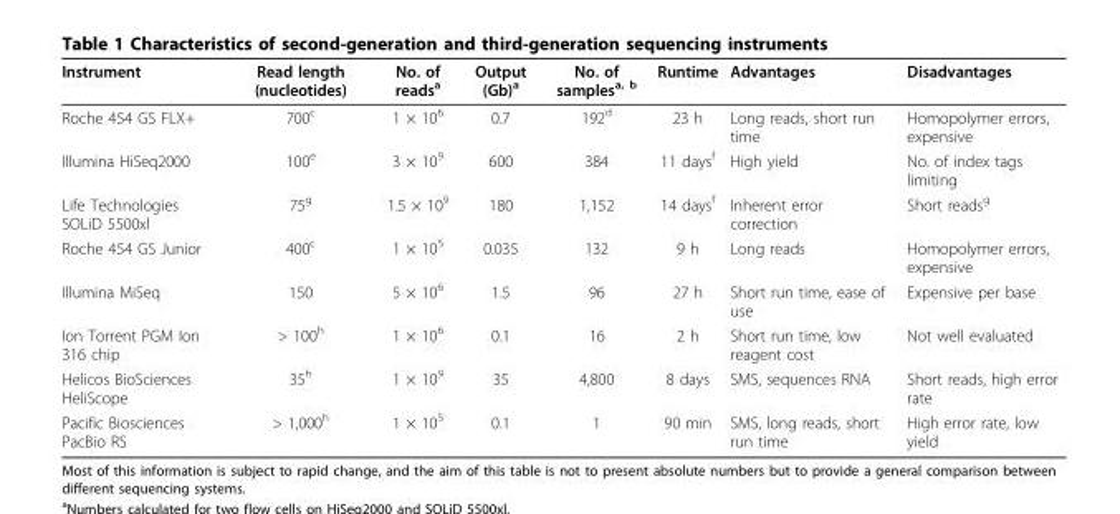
<table><thead><tr><td>Instrument</td><td>Read length (nucleotides)</td><td>No. of reads<sup>a</sup></td><td>Output (Gb)<sup>a</sup></td><td>No. of samples<sup>a, b</sup></td><td>Runtime</td><td>Advantages</td><td>Disadvantages</td></tr></thead><tbody><tr><td>Roche 454 GS FLX+</td><td>700<sup>c</sup></td><td>1 × 10<sup>6</sup></td><td>0.7</td><td>192<sup>d</sup></td><td>23 h</td><td>Long reads, short run time</td><td>Homopolymer errors, expensive</td></tr><tr><td>Illumina HiSeq2000</td><td>100<sup>e</sup></td><td>3 × 10<sup>9</sup></td><td>600</td><td>384</td><td>11 days<sup>f</sup></td><td>High yield</td><td>No. of index tags limiting</td></tr><tr><td>Life Technologies SOLiD 5500xl</td><td>75<sup>g</sup></td><td>1.5 × 10<sup>9</sup></td><td>180</td><td>1,152</td><td>14 days<sup>f</sup></td><td>Inherent error correction</td><td>Short reads<sup>g</sup></td></tr><tr><td>Roche 454 GS Junior</td><td>400<sup>c</sup></td><td>1 × 10<sup>5</sup></td><td>0.035</td><td>132</td><td>9 h</td><td>Long reads</td><td>Homopolymer errors, expensive</td></tr><tr><td>Illumina MiSeq</td><td>150</td><td>5 × 10<sup>6</sup></td><td>1.5</td><td>96</td><td>27 h</td><td>Short run time, ease of use</td><td>Expensive per base</td></tr><tr><td>Ion Torrent PGM Ion 316 chip</td><td>&gt; 100<sup>h</sup></td><td>1 × 10<sup>6</sup></td><td>0.1</td><td>16</td><td>2 h</td><td>Short run time, low reagent cost</td><td>Not well evaluated</td></tr><tr><td>Helicos BioSciences HeliScope</td><td>35<sup>h</sup></td><td>1 × 10<sup>9</sup></td><td>35</td><td>4,800</td><td>8 days</td><td>SMS, sequences RNA</td><td>Short reads, high error rate</td></tr><tr><td>Pacific Biosciences PacBio RS</td><td>&gt; 1,000<sup>h</sup></td><td>1 × 10<sup>5</sup></td><td>0.1</td><td>1</td><td>90 min</td><td>SMS, long reads, short run time</td><td>High error rate, low yield</td></tr></tbody></table>